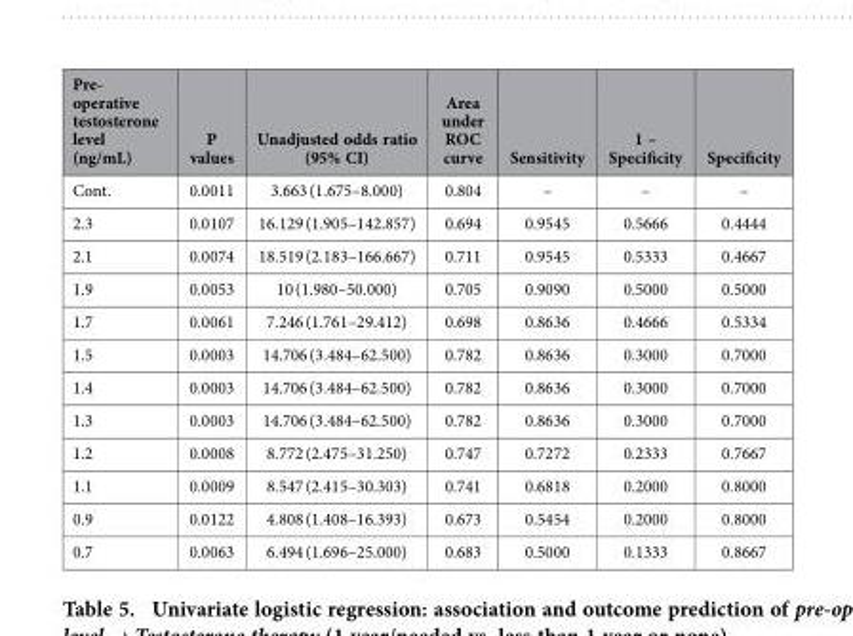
<table><thead><tr><td>Pre- operative testosterone level (ng/mL)</td><td>P values</td><td>Unadjusted odds ratio (95% CI)</td><td>Area under ROC curve</td><td>Sensitivity</td><td>1 – Specificity</td><td>Specificity</td></tr></thead><tbody><tr><td>Cont.</td><td>0.0011</td><td>3.663 (1.675–8.000)</td><td>0.804</td><td>–</td><td>–</td><td>–</td></tr><tr><td>2.3</td><td>0.0107</td><td>16.129 (1.905–142.857)</td><td>0.694</td><td>0.9545</td><td>0.5666</td><td>0.4444</td></tr><tr><td>2.1</td><td>0.0074</td><td>18.519 (2.183–166.667)</td><td>0.711</td><td>0.9545</td><td>0.5333</td><td>0.4667</td></tr><tr><td>1.9</td><td>0.0053</td><td>10 (1.980–50.000)</td><td>0.705</td><td>0.9090</td><td>0.5000</td><td>0.5000</td></tr><tr><td>1.7</td><td>0.0061</td><td>7.246 (1.761–29.412)</td><td>0.698</td><td>0.8636</td><td>0.4666</td><td>0.5334</td></tr><tr><td>1.5</td><td>0.0003</td><td>14.706 (3.484–62.500)</td><td>0.782</td><td>0.8636</td><td>0.3000</td><td>0.7000</td></tr><tr><td>1.4</td><td>0.0003</td><td>14.706 (3.484–62.500)</td><td>0.782</td><td>0.8636</td><td>0.3000</td><td>0.7000</td></tr><tr><td>1.3</td><td>0.0003</td><td>14.706 (3.484–62.500)</td><td>0.782</td><td>0.8636</td><td>0.3000</td><td>0.7000</td></tr><tr><td>1.2</td><td>0.0008</td><td>8.772 (2.475–31.250)</td><td>0.747</td><td>0.7272</td><td>0.2333</td><td>0.7667</td></tr><tr><td>1.1</td><td>0.0009</td><td>8.547 (2.415–30.303)</td><td>0.741</td><td>0.6818</td><td>0.2000</td><td>0.8000</td></tr><tr><td>0.9</td><td>0.0122</td><td>4.808 (1.408–16.393)</td><td>0.673</td><td>0.5454</td><td>0.2000</td><td>0.8000</td></tr><tr><td>0.7</td><td>0.0063</td><td>6.494 (1.696–25.000)</td><td>0.683</td><td>0.5000</td><td>0.1333</td><td>0.8667</td></tr></tbody></table>